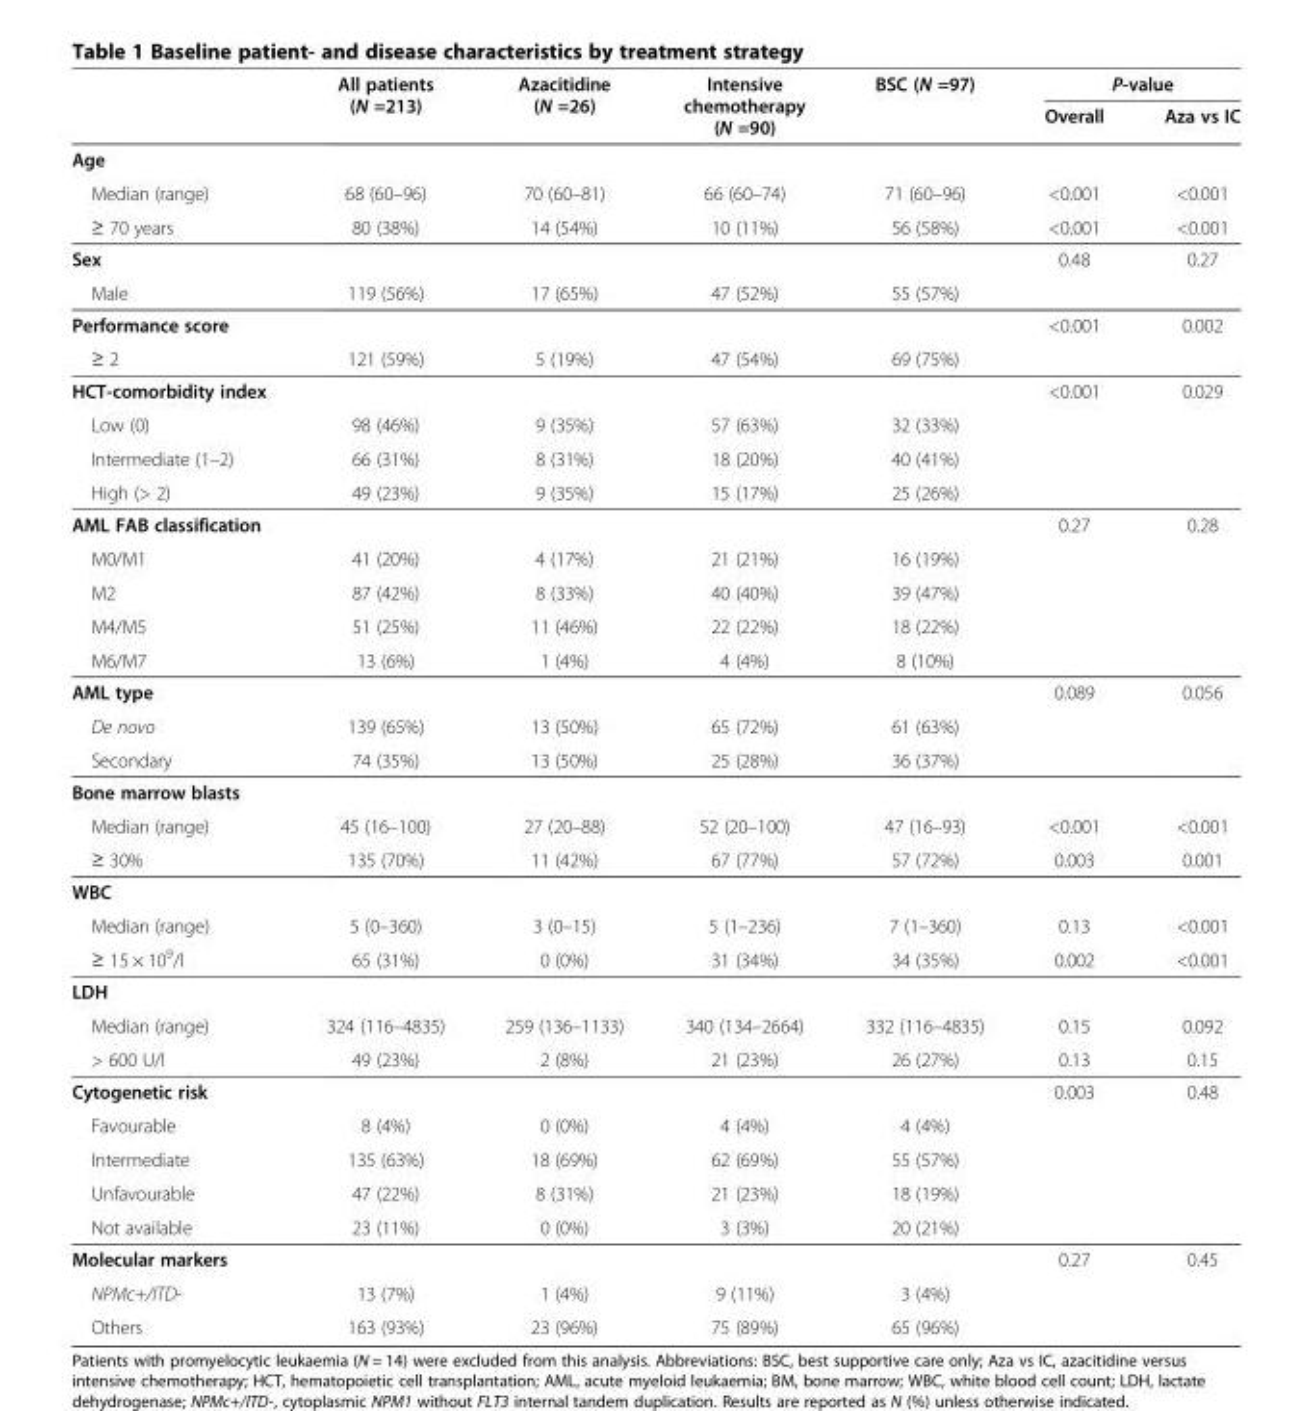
<table><thead><tr><td rowspan="2"></td><td rowspan="2">All patients (N =213)</td><td rowspan="2">Azacitidine (N =26)</td><td rowspan="2">Intensive chemotherapy (N =90)</td><td rowspan="2">BSC (N =97)</td><td colspan="2">P-value</td></tr><tr><td>Overall</td><td>Aza vs IC</td></tr></thead><tbody><tr><td colspan="7">Age</td></tr><tr><td>Median (range)</td><td>68 (60–96)</td><td>70 (60–81)</td><td>66 (60–74)</td><td>71 (60–96)</td><td>&lt;0.001</td><td>&lt;0.001</td></tr><tr><td>≥ 70 years</td><td>80 (38%)</td><td>14 (54%)</td><td>10 (11%)</td><td>56 (58%)</td><td>&lt;0.001</td><td>&lt;0.001</td></tr><tr><td colspan="5">Sex</td><td rowspan="2">0.48</td><td rowspan="2">0.27</td></tr><tr><td>Male</td><td>119 (56%)</td><td>17 (65%)</td><td>47 (52%)</td><td>55 (57%)</td></tr><tr><td colspan="5">Performance score</td><td rowspan="2">&lt;0.001</td><td rowspan="2">0.002</td></tr><tr><td>≥ 2</td><td>121 (59%)</td><td>5 (19%)</td><td>47 (54%)</td><td>69 (75%)</td></tr><tr><td colspan="5">HCT-comorbidity index</td><td rowspan="4">&lt;0.001</td><td rowspan="4">0.029</td></tr><tr><td>Low (0)</td><td>98 (46%)</td><td>9 (35%)</td><td>57 (63%)</td><td>32 (33%)</td></tr><tr><td>Intermediate (1–2)</td><td>66 (31%)</td><td>8 (31%)</td><td>18 (20%)</td><td>40 (41%)</td></tr><tr><td>High (&gt; 2)</td><td>49 (23%)</td><td>9 (35%)</td><td>15 (17%)</td><td>25 (26%)</td></tr><tr><td colspan="5">AML FAB classification</td><td rowspan="5">0.27</td><td rowspan="5">0.28</td></tr><tr><td>M0/M1</td><td>41 (20%)</td><td>4 (17%)</td><td>21 (21%)</td><td>16 (19%)</td></tr><tr><td>M2</td><td>87 (42%)</td><td>8 (33%)</td><td>40 (40%)</td><td>39 (47%)</td></tr><tr><td>M4/M5</td><td>51 (25%)</td><td>11 (46%)</td><td>22 (22%)</td><td>18 (22%)</td></tr><tr><td>M6/M7</td><td>13 (6%)</td><td>1 (4%)</td><td>4 (4%)</td><td>8 (10%)</td></tr><tr><td colspan="5">AML type</td><td rowspan="3">0.089</td><td rowspan="3">0.056</td></tr><tr><td>De novo</td><td>139 (65%)</td><td>13 (50%)</td><td>65 (72%)</td><td>61 (63%)</td></tr><tr><td>Secondary</td><td>74 (35%)</td><td>13 (50%)</td><td>25 (28%)</td><td>36 (37%)</td></tr><tr><td colspan="7">Bone marrow blasts</td></tr><tr><td>Median (range)</td><td>45 (16–100)</td><td>27 (20–88)</td><td>52 (20–100)</td><td>47 (16–93)</td><td>&lt;0.001</td><td>&lt;0.001</td></tr><tr><td>≥ 30%</td><td>135 (70%)</td><td>11 (42%)</td><td>67 (77%)</td><td>57 (72%)</td><td>0.003</td><td>0.001</td></tr><tr><td colspan="7">WBC</td></tr><tr><td>Median (range)</td><td>5 (0–360)</td><td>3 (0–15)</td><td>5 (1–236)</td><td>7 (1–360)</td><td>0.13</td><td>&lt;0.001</td></tr><tr><td>≥ 15 × 10<sup>9</sup>/l</td><td>65 (31%)</td><td>0 (0%)</td><td>31 (34%)</td><td>34 (35%)</td><td>0.002</td><td>&lt;0.001</td></tr><tr><td colspan="7">LDH</td></tr><tr><td>Median (range)</td><td>324 (116–4835)</td><td>259 (136–1133)</td><td>340 (134–2664)</td><td>332 (116–4835)</td><td>0.15</td><td>0.092</td></tr><tr><td>&gt; 600 U/l</td><td>49 (23%)</td><td>2 (8%)</td><td>21 (23%)</td><td>26 (27%)</td><td>0.13</td><td>0.15</td></tr><tr><td colspan="5">Cytogenetic risk</td><td rowspan="5">0.003</td><td rowspan="5">0.48</td></tr><tr><td>Favourable</td><td>8 (4%)</td><td>0 (0%)</td><td>4 (4%)</td><td>4 (4%)</td></tr><tr><td>Intermediate</td><td>135 (63%)</td><td>18 (69%)</td><td>62 (69%)</td><td>55 (57%)</td></tr><tr><td>Unfavourable</td><td>47 (22%)</td><td>8 (31%)</td><td>21 (23%)</td><td>18 (19%)</td></tr><tr><td>Not available</td><td>23 (11%)</td><td>0 (0%)</td><td>3 (3%)</td><td>20 (21%)</td></tr><tr><td colspan="5">Molecular markers</td><td rowspan="3">0.27</td><td rowspan="3">0.45</td></tr><tr><td>NPMc+/ITD-</td><td>13 (7%)</td><td>1 (4%)</td><td>9 (11%)</td><td>3 (4%)</td></tr><tr><td>Others</td><td>163 (93%)</td><td>23 (96%)</td><td>75 (89%)</td><td>65 (96%)</td></tr></tbody></table>